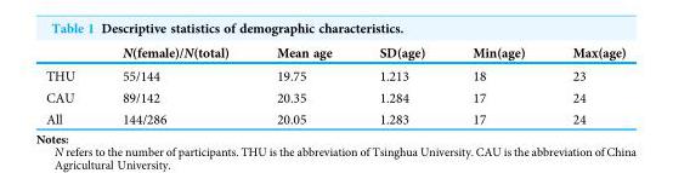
<table><thead><tr><td></td><td>N(female)/N(total)</td><td>Mean age</td><td>SD(age)</td><td>Min(age)</td><td>Max(age)</td></tr></thead><tbody><tr><td>THU</td><td>55/144</td><td>19.75</td><td>1.213</td><td>18</td><td>23</td></tr><tr><td>CAU</td><td>89/142</td><td>20.35</td><td>1.284</td><td>17</td><td>24</td></tr><tr><td>All</td><td>144/286</td><td>20.05</td><td>1.283</td><td>17</td><td>24</td></tr></tbody></table>